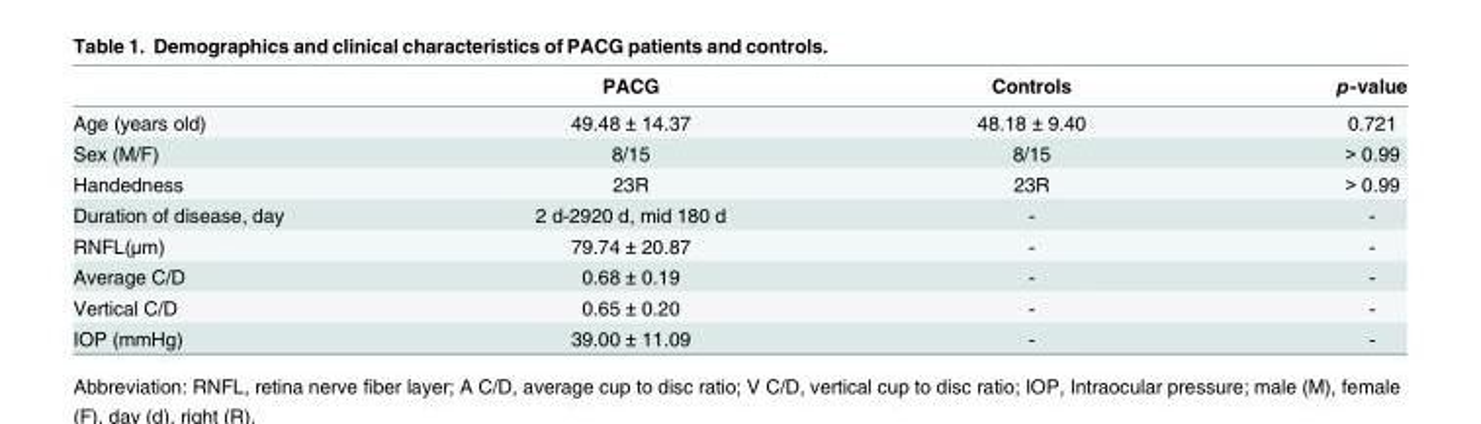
<table><thead><tr><td></td><td>PACG</td><td>Controls</td><td>p-value</td></tr></thead><tbody><tr><td>Age (years old)</td><td>49.48 ± 14.37</td><td>48.18 ± 9.40</td><td>0.721</td></tr><tr><td>Sex (M/F)</td><td>8/15</td><td>8/15</td><td>&gt; 0.99</td></tr><tr><td>Handedness</td><td>23R</td><td>23R</td><td>&gt; 0.99</td></tr><tr><td>Duration of disease, day</td><td>2 d-2920 d, mid 180 d</td><td>-</td><td>-</td></tr><tr><td>RNFL(μm)</td><td>79.74 ± 20.87</td><td>-</td><td>-</td></tr><tr><td>Average C/D</td><td>0.68 ± 0.19</td><td>-</td><td>-</td></tr><tr><td>Vertical C/D</td><td>0.65 ± 0.20</td><td>-</td><td>-</td></tr><tr><td>IOP (mmHg)</td><td>39.00 ± 11.09</td><td>-</td><td>-</td></tr></tbody></table>